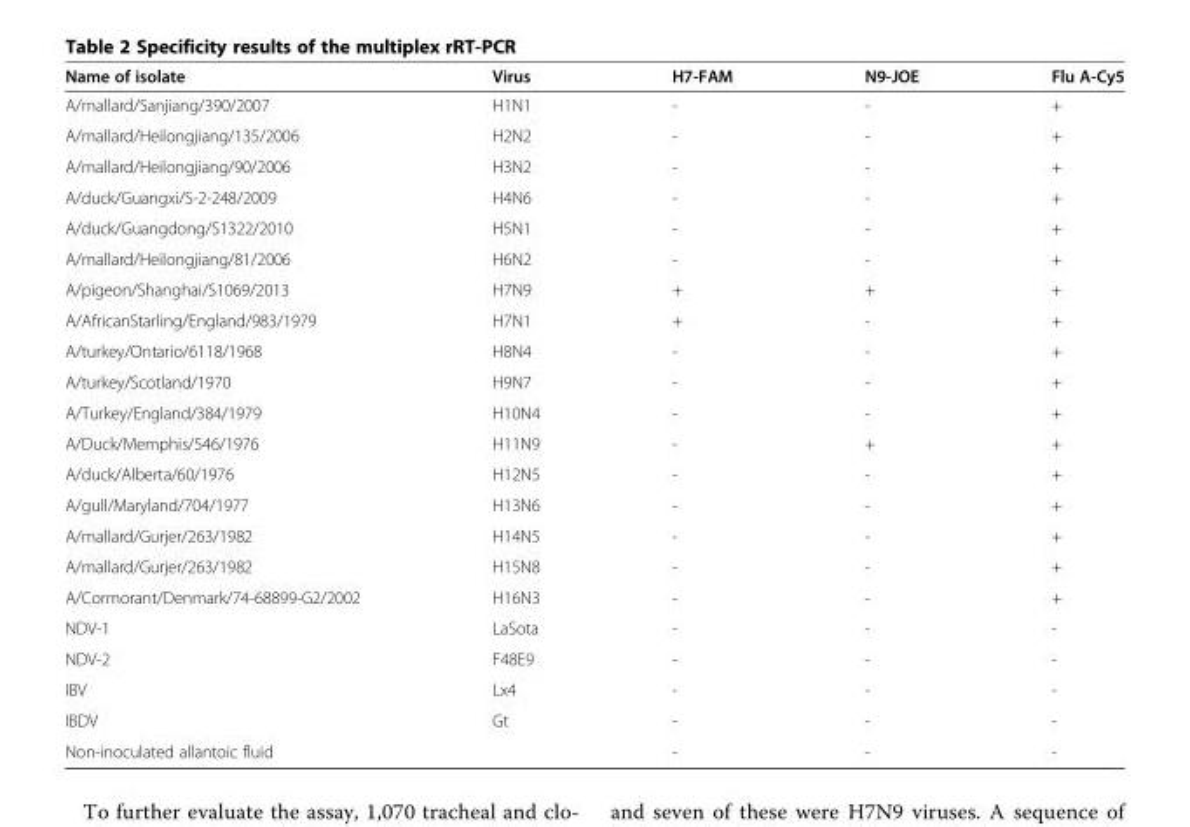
<table><thead><tr><td>Name of isolate</td><td>Virus</td><td>H7-FAM</td><td>N9-JOE</td><td>Flu A-Cy5</td></tr></thead><tbody><tr><td>A/mallard/Sanjiang/390/2007</td><td>H1N1</td><td>-</td><td>-</td><td>+</td></tr><tr><td>A/mallard/Heilongjiang/135/2006</td><td>H2N2</td><td>-</td><td>-</td><td>+</td></tr><tr><td>A/mallard/Heilongjiang/90/2006</td><td>H3N2</td><td>-</td><td>-</td><td>+</td></tr><tr><td>A/duck/Guangxi/S-2-248/2009</td><td>H4N6</td><td>-</td><td>-</td><td>+</td></tr><tr><td>A/duck/Guangdong/S1322/2010</td><td>H5N1</td><td>-</td><td>-</td><td>+</td></tr><tr><td>A/mallard/Heilongjiang/81/2006</td><td>H6N2</td><td>-</td><td>-</td><td>+</td></tr><tr><td>A/pigeon/Shanghai/S1069/2013</td><td>H7N9</td><td>+</td><td>+</td><td>+</td></tr><tr><td>A/AfricanStarling/England/983/1979</td><td>H7N1</td><td>+</td><td>-</td><td>+</td></tr><tr><td>A/turkey/Ontario/6118/1968</td><td>H8N4</td><td>-</td><td>-</td><td>+</td></tr><tr><td>A/turkey/Scotland/1970</td><td>H9N7</td><td>-</td><td>-</td><td>+</td></tr><tr><td>A/Turkey/England/384/1979</td><td>H10N4</td><td>-</td><td>-</td><td>+</td></tr><tr><td>A/Duck/Memphis/546/1976</td><td>H11N9</td><td>-</td><td>+</td><td>+</td></tr><tr><td>A/duck/Alberta/60/1976</td><td>H12N5</td><td>-</td><td>-</td><td>+</td></tr><tr><td>A/gull/Maryland/704/1977</td><td>H13N6</td><td>-</td><td>-</td><td>+</td></tr><tr><td>A/mallard/Gurjer/263/1982</td><td>H14N5</td><td>-</td><td>-</td><td>+</td></tr><tr><td>A/mallard/Gurjer/263/1982</td><td>H15N8</td><td>-</td><td>-</td><td>+</td></tr><tr><td>A/Cormorant/Denmark/74-68899-G2/2002</td><td>H16N3</td><td>-</td><td>-</td><td>+</td></tr><tr><td>NDV-1</td><td>LaSota</td><td>-</td><td>-</td><td>-</td></tr><tr><td>NDV-2</td><td>F48E9</td><td>-</td><td>-</td><td>-</td></tr><tr><td>IBV</td><td>Lx4</td><td>-</td><td>-</td><td>-</td></tr><tr><td>IBDV</td><td>Gt</td><td>-</td><td>-</td><td>-</td></tr><tr><td>Non-inoculated allantoic fluid</td><td></td><td>-</td><td>-</td><td>-</td></tr></tbody></table>